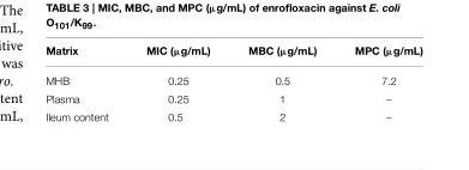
<table><thead><tr><td>Matrix</td><td>MIC (µg/mL)</td><td>MBC (µg/mL)</td><td>MPC (µg/mL)</td></tr></thead><tbody><tr><td>MHB</td><td>0.25</td><td>0.5</td><td>7.2</td></tr><tr><td>Plasma</td><td>0.25</td><td>1</td><td>–</td></tr><tr><td>Ileum content</td><td>0.5</td><td>2</td><td>–</td></tr></tbody></table>